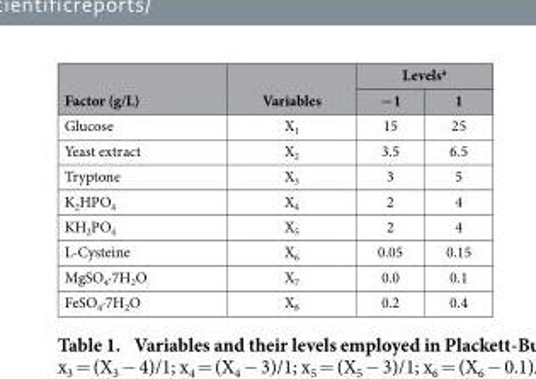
<table><thead><tr><td rowspan="2">Factor (g/L)</td><td rowspan="2">Variables</td><td colspan="2">Levels<sup>a</sup></td></tr><tr><td>−1</td><td>1</td></tr></thead><tbody><tr><td>Glucose</td><td>X<sub>1</sub></td><td>15</td><td>25</td></tr><tr><td>Yeast extract</td><td>X<sub>2</sub></td><td>3.5</td><td>6.5</td></tr><tr><td>Tryptone</td><td>X<sub>3</sub></td><td>3</td><td>5</td></tr><tr><td>K<sub>2</sub>HPO<sub>4</sub></td><td>X<sub>4</sub></td><td>2</td><td>4</td></tr><tr><td>KH<sub>2</sub>PO<sub>4</sub></td><td>X<sub>5</sub></td><td>2</td><td>4</td></tr><tr><td>L-Cysteine</td><td>X<sub>6</sub></td><td>0.05</td><td>0.15</td></tr><tr><td>MgSO<sub>4</sub>·7H<sub>2</sub>O</td><td>X<sub>7</sub></td><td>0.0</td><td>0.1</td></tr><tr><td>FeSO<sub>4</sub>·7H<sub>2</sub>O</td><td>X<sub>8</sub></td><td>0.2</td><td>0.4</td></tr></tbody></table>